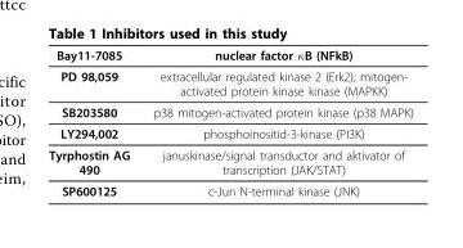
<table><thead><tr><td>Bay11-7085</td><td>nuclear factor κB (NFkB)</td></tr></thead><tbody><tr><td>PD 98,059</td><td>extracellular regulated kinase 2 (Erk2); mitogen- activated protein kinase kinase (MAPKK)</td></tr><tr><td>SB203580</td><td>p38 mitogen-activated protein kinase (p38 MAPK)</td></tr><tr><td>LY294,002</td><td>phosphoinositid-3-kinase (PI3K)</td></tr><tr><td>Tyrphostin AG 490</td><td>januskinase/signal transductor and aktivator of transcription (JAK/STAT)</td></tr><tr><td>SP600125</td><td>c-Jun N-terminal kinase (JNK)</td></tr></tbody></table>